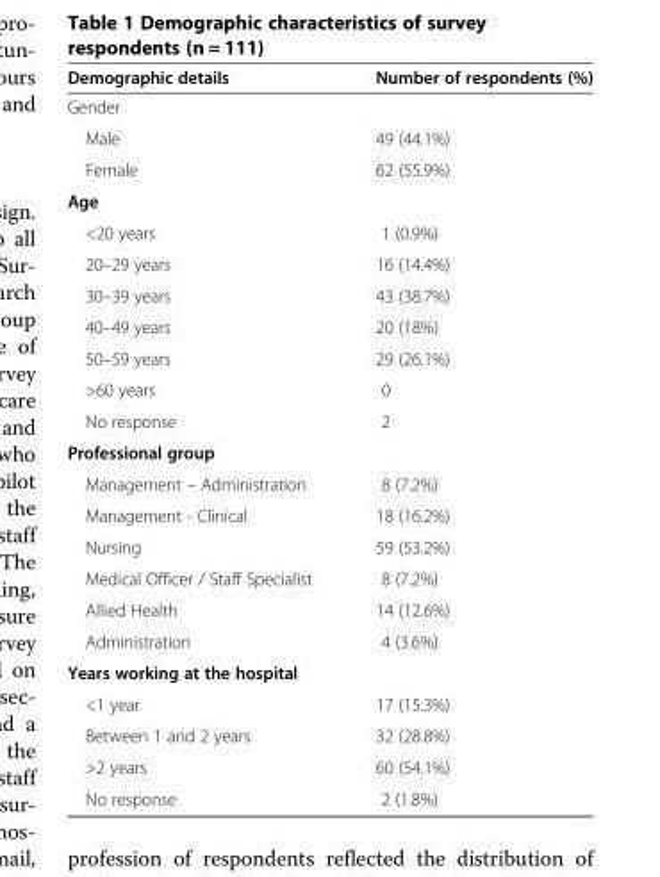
<table><thead><tr><td>Demographic details</td><td>Number of respondents (%)</td></tr></thead><tbody><tr><td colspan="2">Gender</td></tr><tr><td>Male</td><td>49 (44.1%)</td></tr><tr><td>Female</td><td>62 (55.9%)</td></tr><tr><td colspan="2">Age</td></tr><tr><td>&lt;20 years</td><td>1 (0.9%)</td></tr><tr><td>20–29 years</td><td>16 (14.4%)</td></tr><tr><td>30–39 years</td><td>43 (38.7%)</td></tr><tr><td>40–49 years</td><td>20 (18%)</td></tr><tr><td>50–59 years</td><td>29 (26.1%)</td></tr><tr><td>&gt;60 years</td><td>0</td></tr><tr><td>No response</td><td>2</td></tr><tr><td colspan="2">Professional group</td></tr><tr><td>Management – Administration</td><td>8 (7.2%)</td></tr><tr><td>Management - Clinical</td><td>18 (16.2%)</td></tr><tr><td>Nursing</td><td>59 (53.2%)</td></tr><tr><td>Medical Officer / Staff Specialist</td><td>8 (7.2%)</td></tr><tr><td>Allied Health</td><td>14 (12.6%)</td></tr><tr><td>Administration</td><td>4 (3.6%)</td></tr><tr><td colspan="2">Years working at the hospital</td></tr><tr><td>&lt;1 year</td><td>17 (15.3%)</td></tr><tr><td>Between 1 and 2 years</td><td>32 (28.8%)</td></tr><tr><td>&gt;2 years</td><td>60 (54.1%)</td></tr><tr><td>No response</td><td>2 (1.8%)</td></tr></tbody></table>